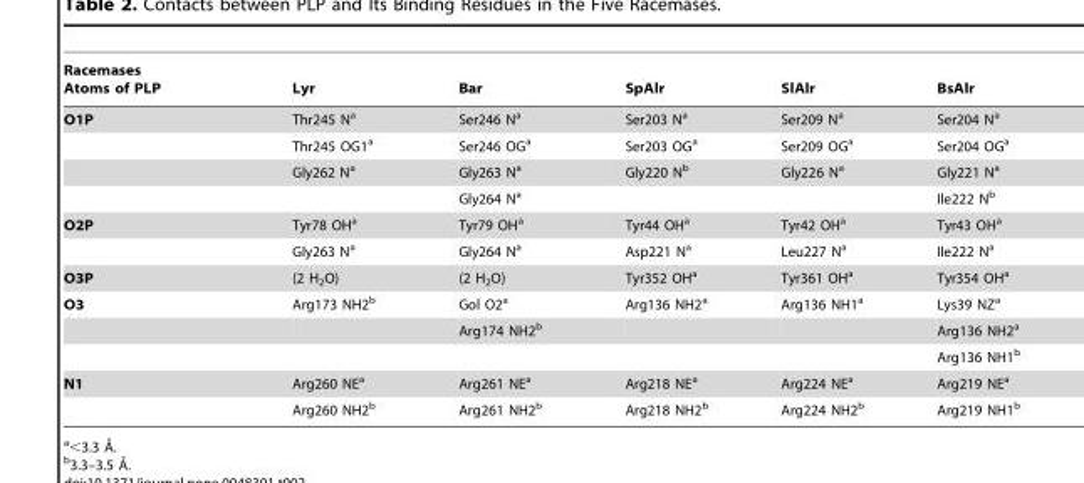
<table><thead><tr><td>Racemases Atoms of PLP</td><td>Lyr</td><td>Bar</td><td>SpAlr</td><td>SlAlr</td><td>BsAlr</td></tr></thead><tbody><tr><td rowspan="4">O1P</td><td>Thr245 N<sup>a</sup></td><td>Ser246 N<sup>a</sup></td><td>Ser203 N<sup>a</sup></td><td>Ser209 N<sup>a</sup></td><td>Ser204 N<sup>a</sup></td></tr><tr><td>Thr245 OG1<sup>a</sup></td><td>Ser246 OG<sup>a</sup></td><td>Ser203 OG<sup>a</sup></td><td>Ser209 OG<sup>a</sup></td><td>Ser204 OG<sup>a</sup></td></tr><tr><td>Gly262 N<sup>a</sup></td><td>Gly263 N<sup>a</sup></td><td>Gly220 N<sup>b</sup></td><td>Gly226 N<sup>a</sup></td><td>Gly221 N<sup>a</sup></td></tr><tr><td></td><td>Gly264 N<sup>a</sup></td><td></td><td></td><td>Ile222 N<sup>b</sup></td></tr><tr><td rowspan="2">O2P</td><td>Tyr78 OH<sup>a</sup></td><td>Tyr79 OH<sup>a</sup></td><td>Tyr44 OH<sup>a</sup></td><td>Tyr42 OH<sup>a</sup></td><td>Tyr43 OH<sup>a</sup></td></tr><tr><td>Gly263 N<sup>a</sup></td><td>Gly264 N<sup>a</sup></td><td>Asp221 N<sup>a</sup></td><td>Leu227 N<sup>a</sup></td><td>Ile222 N<sup>a</sup></td></tr><tr><td>O3P</td><td>(2 H<sub>2</sub>O)</td><td>(2 H<sub>2</sub>O)</td><td>Tyr352 OH<sup>a</sup></td><td>Tyr361 OH<sup>a</sup></td><td>Tyr354 OH<sup>a</sup></td></tr><tr><td rowspan="3">O3</td><td>Arg173 NH2<sup>b</sup></td><td>Gol O2<sup>a</sup></td><td>Arg136 NH2<sup>a</sup></td><td>Arg136 NH1<sup>a</sup></td><td>Lys39 NZ<sup>a</sup></td></tr><tr><td></td><td>Arg174 NH2<sup>b</sup></td><td></td><td></td><td>Arg136 NH2<sup>a</sup></td></tr><tr><td></td><td></td><td></td><td></td><td>Arg136 NH1<sup>b</sup></td></tr><tr><td rowspan="2">N1</td><td>Arg260 NE<sup>a</sup></td><td>Arg261 NE<sup>a</sup></td><td>Arg218 NE<sup>a</sup></td><td>Arg224 NE<sup>a</sup></td><td>Arg219 NE<sup>a</sup></td></tr><tr><td>Arg260 NH2<sup>b</sup></td><td>Arg261 NH2<sup>b</sup></td><td>Arg218 NH2<sup>b</sup></td><td>Arg224 NH2<sup>b</sup></td><td>Arg219 NH1<sup>b</sup></td></tr></tbody></table>